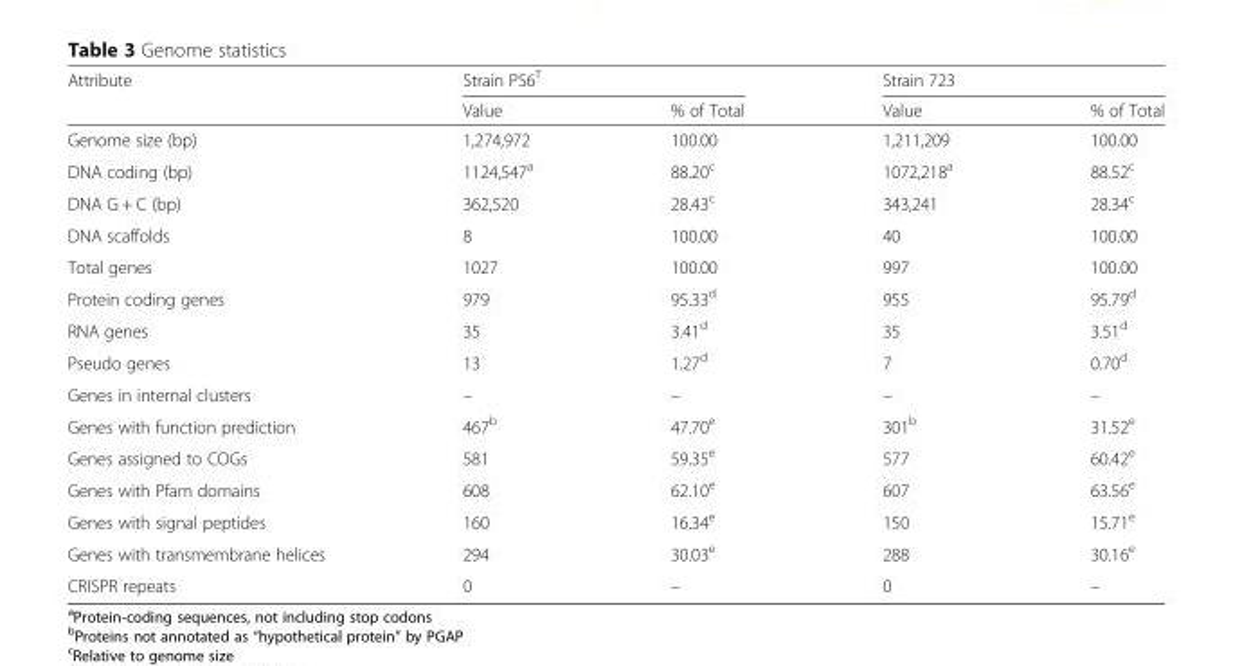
<table><thead><tr><td rowspan="2">Attribute</td><td colspan="2">Strain PS6<sup>T</sup></td><td colspan="2">Strain 723</td></tr><tr><td>Value</td><td>% of Total</td><td>Value</td><td>% of Total</td></tr></thead><tbody><tr><td>Genome size (bp)</td><td>1,274,972</td><td>100.00</td><td>1,211,209</td><td>100.00</td></tr><tr><td>DNA coding (bp)</td><td>1124,547<sup>a</sup></td><td>88.20<sup>c</sup></td><td>1072,218<sup>a</sup></td><td>88.52<sup>c</sup></td></tr><tr><td>DNA G + C (bp)</td><td>362,520</td><td>28.43<sup>c</sup></td><td>343,241</td><td>28.34<sup>c</sup></td></tr><tr><td>DNA scaffolds</td><td>8</td><td>100.00</td><td>40</td><td>100.00</td></tr><tr><td>Total genes</td><td>1027</td><td>100.00</td><td>997</td><td>100.00</td></tr><tr><td>Protein coding genes</td><td>979</td><td>95.33<sup>d</sup></td><td>955</td><td>95.79<sup>d</sup></td></tr><tr><td>RNA genes</td><td>35</td><td>3.41<sup>d</sup></td><td>35</td><td>3.51<sup>d</sup></td></tr><tr><td>Pseudo genes</td><td>13</td><td>1.27<sup>d</sup></td><td>7</td><td>0.70<sup>d</sup></td></tr><tr><td>Genes in internal clusters</td><td>–</td><td>–</td><td>–</td><td>–</td></tr><tr><td>Genes with function prediction</td><td>467<sup>b</sup></td><td>47.70<sup>e</sup></td><td>301<sup>b</sup></td><td>31.52<sup>e</sup></td></tr><tr><td>Genes assigned to COGs</td><td>581</td><td>59.35<sup>e</sup></td><td>577</td><td>60.42<sup>e</sup></td></tr><tr><td>Genes with Pfam domains</td><td>608</td><td>62.10<sup>e</sup></td><td>607</td><td>63.56<sup>e</sup></td></tr><tr><td>Genes with signal peptides</td><td>160</td><td>16.34<sup>e</sup></td><td>150</td><td>15.71<sup>e</sup></td></tr><tr><td>Genes with transmembrane helices</td><td>294</td><td>30.03<sup>e</sup></td><td>288</td><td>30.16<sup>e</sup></td></tr><tr><td>CRISPR repeats</td><td>0</td><td>–</td><td>0</td><td>–</td></tr></tbody></table>